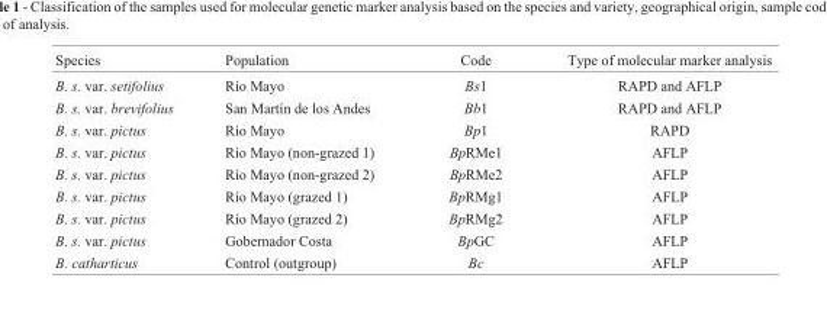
<table><thead><tr><td>Species</td><td>Population</td><td>Code</td><td>Type of molecular marker analysis</td></tr></thead><tbody><tr><td>B. s. var. setifolius</td><td>Río Mayo</td><td>Bs1</td><td>RAPD and AFLP</td></tr><tr><td>B. s. var. brevifolius</td><td>San Martín de los Andes</td><td>Bb1</td><td>RAPD and AFLP</td></tr><tr><td>B. s. var. pictus</td><td>Río Mayo</td><td>Bp1</td><td>RAPD</td></tr><tr><td>B. s. var. pictus</td><td>Río Mayo (non-grazed 1)</td><td>BpRMe1</td><td>AFLP</td></tr><tr><td>B. s. var. pictus</td><td>Río Mayo (non-grazed 2)</td><td>BpRMe2</td><td>AFLP</td></tr><tr><td>B. s. var. pictus</td><td>Río Mayo (grazed 1)</td><td>BpRMg1</td><td>AFLP</td></tr><tr><td>B. s. var. pictus</td><td>Río Mayo (grazed 2)</td><td>BpRMg2</td><td>AFLP</td></tr><tr><td>B. s. var. pictus</td><td>Gobernador Costa</td><td>BpGC</td><td>AFLP</td></tr><tr><td>B. catharticus</td><td>Control (outgroup)</td><td>Bc</td><td>AFLP</td></tr></tbody></table>